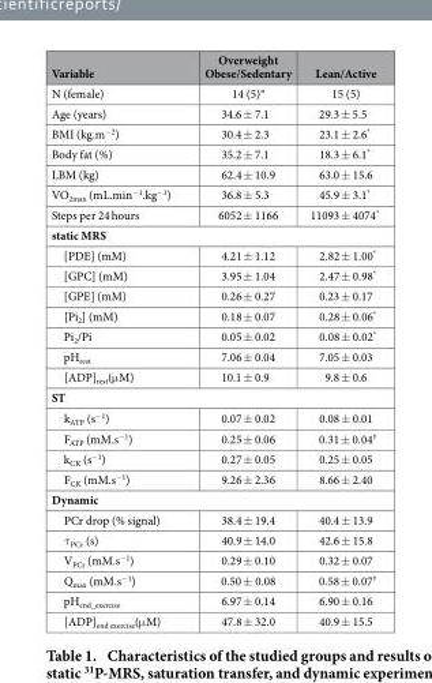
<table><thead><tr><td>Variable</td><td>Overweight Obese/Sedentary</td><td>Lean/Active</td></tr></thead><tbody><tr><td>N (female)</td><td>14 (5)°</td><td>15 (5)</td></tr><tr><td>Age (years)</td><td>34.6 ± 7.1</td><td>29.3 ± 5.5</td></tr><tr><td>BMI (kg.m<sup>−2</sup>)</td><td>30.4 ± 2.3</td><td>23.1 ± 2.6*</td></tr><tr><td>Body fat (%)</td><td>35.2 ± 7.1</td><td>18.3 ± 6.1*</td></tr><tr><td>LBM (kg)</td><td>62.4 ± 10.9</td><td>63.0 ± 15.6</td></tr><tr><td>VO<sub>2max</sub> (mL.min<sup>−1</sup>.kg<sup>−1</sup>)</td><td>36.8 ± 5.3</td><td>45.9 ± 3.1*</td></tr><tr><td>Steps per 24 hours</td><td>6052 ± 1166</td><td>11093 ± 4074*</td></tr><tr><td colspan="3">static MRS</td></tr><tr><td>[PDE] (mM)</td><td>4.21 ± 1.12</td><td>2.82 ± 1.00*</td></tr><tr><td>[GPC] (mM)</td><td>3.95 ± 1.04</td><td>2.47 ± 0.98*</td></tr><tr><td>[GPE] (mM)</td><td>0.26 ± 0.27</td><td>0.23 ± 0.17</td></tr><tr><td>[Pi<sub>2</sub>] (mM)</td><td>0.18 ± 0.07</td><td>0.28 ± 0.06*</td></tr><tr><td>Pi<sub>2</sub>/Pi</td><td>0.05 ± 0.02</td><td>0.08 ± 0.02*</td></tr><tr><td>pH<sub>rest</sub></td><td>7.06 ± 0.04</td><td>7.05 ± 0.03</td></tr><tr><td>[ADP]<sub>rest</sub>(μ M)</td><td>10.1 ± 0.9</td><td>9.8 ± 0.6</td></tr><tr><td colspan="3">ST</td></tr><tr><td>k<sub>ATP</sub> (s<sup>−1</sup>)</td><td>0.07 ± 0.02</td><td>0.08 ± 0.01</td></tr><tr><td>F<sub>ATP</sub> (mM.s<sup>−1</sup>)</td><td>0.25 ± 0.06</td><td>0.31 ± 0.04<sup>†</sup></td></tr><tr><td>k<sub>CK</sub> (s<sup>−1</sup>)</td><td>0.27 ± 0.05</td><td>0.25 ± 0.05</td></tr><tr><td>F<sub>CK</sub> (mM.s<sup>−1</sup>)</td><td>9.26 ± 2.36</td><td>8.66 ± 2.40</td></tr><tr><td colspan="3">Dynamic</td></tr><tr><td>PCr drop (% signal)</td><td>38.4 ± 19.4</td><td>40.4 ± 13.9</td></tr><tr><td>τ <sub>PCr</sub> (s)</td><td>40.9 ± 14.0</td><td>42.6 ± 15.8</td></tr><tr><td>V<sub>PCr</sub> (mM.s<sup>−1</sup>)</td><td>0.29 ± 0.10</td><td>0.32 ± 0.07</td></tr><tr><td>Q<sub>max</sub> (mM.s<sup>−1</sup>)</td><td>0.50 ± 0.08</td><td>0.58 ± 0.07<sup>†</sup></td></tr><tr><td>pH<sub>end_exercise</sub></td><td>6.97 ± 0.14</td><td>6.90 ± 0.16</td></tr><tr><td>[ADP]<sub>end exercise</sub>(μ M)</td><td>47.8 ± 32.0</td><td>40.9 ± 15.5</td></tr></tbody></table>